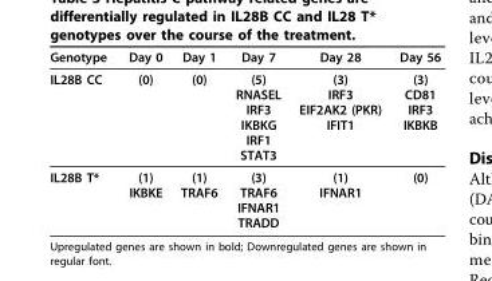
<table><thead><tr><td>Genotype</td><td>Day 0</td><td>Day 1</td><td>Day 7</td><td>Day 28</td><td>Day 56</td></tr></thead><tbody><tr><td>IL28B CC</td><td>(0)</td><td>(0)</td><td>(5) RNASEL IRF3 IKBKG IRF1 STAT3</td><td>(3) IRF3 EIF2AK2 (PKR) IFIT1</td><td>(3) CD81 IRF3 IKBKB</td></tr><tr><td>IL28B T*</td><td>(1) IKBKE</td><td>(1) TRAF6</td><td>(3) TRAF6 IFNAR1 TRADD</td><td>(1) IFNAR1</td><td>(0)</td></tr></tbody></table>